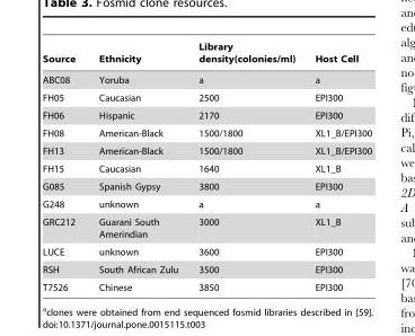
<table><thead><tr><td>Source</td><td>Ethnicity</td><td>Library density(colonies/ml)</td><td>Host Cell</td></tr></thead><tbody><tr><td>ABC08</td><td>Yoruba</td><td>a</td><td>a</td></tr><tr><td>FH05</td><td>Caucasian</td><td>2500</td><td>EPI300</td></tr><tr><td>FH06</td><td>Hispanic</td><td>2170</td><td>EPI300</td></tr><tr><td>FH08</td><td>American-Black</td><td>1500/1800</td><td>XL1_B/EPI300</td></tr><tr><td>FH13</td><td>American-Black</td><td>1500/1800</td><td>XL1_B/EPI300</td></tr><tr><td>FH15</td><td>Caucasian</td><td>1640</td><td>XL1_B</td></tr><tr><td>G085</td><td>Spanish Gypsy</td><td>3800</td><td>EPI300</td></tr><tr><td>G248</td><td>unknown</td><td>a</td><td>a</td></tr><tr><td>GRC212</td><td>Guarani South Amerindian</td><td>3000</td><td>XL1_B</td></tr><tr><td>LUCE</td><td>unknown</td><td>3600</td><td>EPI300</td></tr><tr><td>RSH</td><td>South African Zulu</td><td>3500</td><td>EPI300</td></tr><tr><td>T7526</td><td>Chinese</td><td>3850</td><td>EPI300</td></tr></tbody></table>